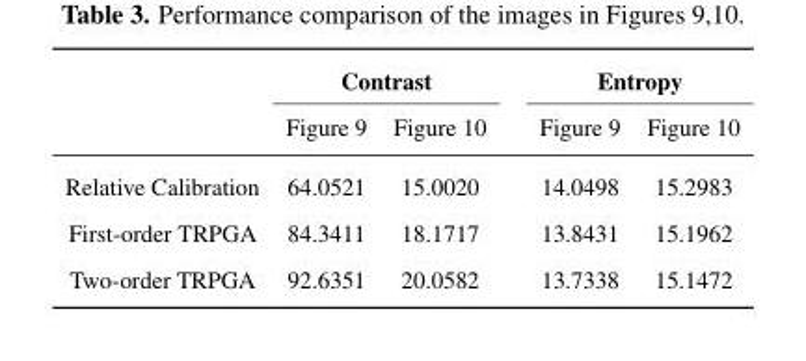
<table><thead><tr><td rowspan="2"></td><td colspan="2">Contrast</td><td colspan="2">Entropy</td></tr><tr><td>Figure 9</td><td>Figure 10</td><td>Figure 9</td><td>Figure 10</td></tr></thead><tbody><tr><td>Relative Calibration</td><td>64.0521</td><td>15.0020</td><td>14.0498</td><td>15.2983</td></tr><tr><td>First-order TRPGA</td><td>84.3411</td><td>18.1717</td><td>13.8431</td><td>15.1962</td></tr><tr><td>Two-order TRPGA</td><td>92.6351</td><td>20.0582</td><td>13.7338</td><td>15.1472</td></tr></tbody></table>